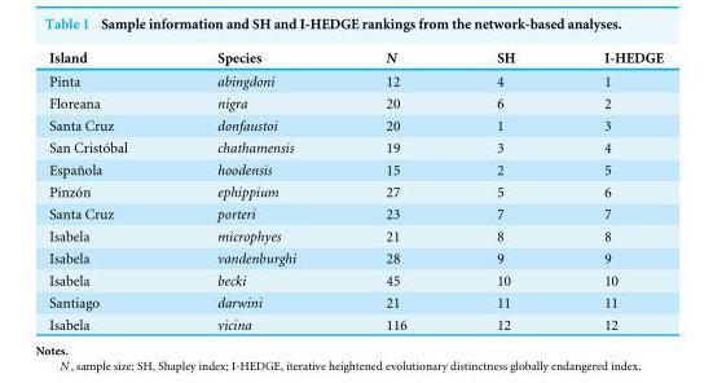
<table><thead><tr><td>Island</td><td>Species</td><td>N</td><td>SH</td><td>I-HEDGE</td></tr></thead><tbody><tr><td>Pinta</td><td>abingdoni</td><td>12</td><td>4</td><td>1</td></tr><tr><td>Floreana</td><td>nigra</td><td>20</td><td>6</td><td>2</td></tr><tr><td>Santa Cruz</td><td>donfaustoi</td><td>20</td><td>1</td><td>3</td></tr><tr><td>San Cristóbal</td><td>chathamensis</td><td>19</td><td>3</td><td>4</td></tr><tr><td>Española</td><td>hoodensis</td><td>15</td><td>2</td><td>5</td></tr><tr><td>Pinzón</td><td>ephippium</td><td>27</td><td>5</td><td>6</td></tr><tr><td>Santa Cruz</td><td>porteri</td><td>23</td><td>7</td><td>7</td></tr><tr><td>Isabela</td><td>microphyes</td><td>21</td><td>8</td><td>8</td></tr><tr><td>Isabela</td><td>vandenburghi</td><td>28</td><td>9</td><td>9</td></tr><tr><td>Isabela</td><td>becki</td><td>45</td><td>10</td><td>10</td></tr><tr><td>Santiago</td><td>darwini</td><td>21</td><td>11</td><td>11</td></tr><tr><td>Isabela</td><td>vicina</td><td>116</td><td>12</td><td>12</td></tr></tbody></table>